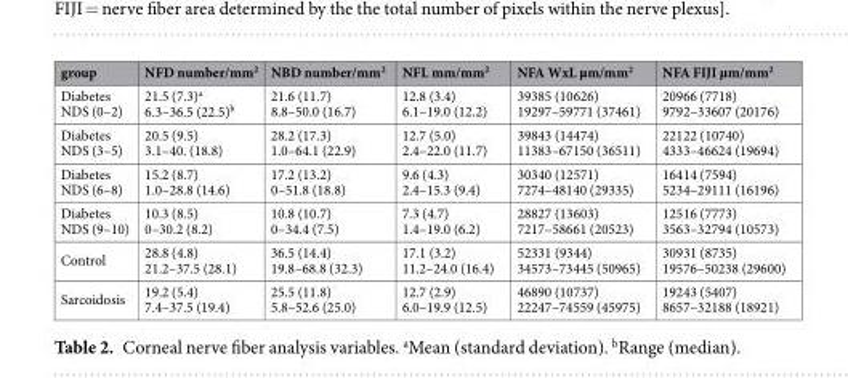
<table><thead><tr><td>group</td><td>NFD number/mm<sup>2</sup></td><td>NBD number/mm<sup>2</sup></td><td>NFL mm/mm<sup>2</sup></td><td>NFA WxL µm/mm<sup>2</sup></td><td>NFA FIJI µm/mm<sup>2</sup></td></tr></thead><tbody><tr><td>Diabetes NDS (0–2)</td><td>21.5 (7.3)<sup>a</sup> 6.3–36.5 (22.5)<sup>b</sup></td><td>21.6 (11.7) 8.8–50.0 (16.7)</td><td>12.8 (3.4) 6.1–19.0 (12.2)</td><td>39385 (10626) 19297–59771 (37461)</td><td>20966 (7718) 9792–33607 (20176)</td></tr><tr><td>Diabetes NDS (3–5)</td><td>20.5 (9.5) 3.1–40. (18.8)</td><td>28.2 (17.3) 1.0–64.1 (22.9)</td><td>12.7 (5.0) 2.4–22.0 (11.7)</td><td>39843 (14474) 11383–67150 (36511)</td><td>22122 (10740) 4333–46624 (19694)</td></tr><tr><td>Diabetes NDS (6–8)</td><td>15.2 (8.7) 1.0–28.8 (14.6)</td><td>17.2 (13.2) 0–51.8 (18.8)</td><td>9.6 (4.3) 2.4–15.3 (9.4)</td><td>30340 (12571) 7274–48140 (29335)</td><td>16414 (7594) 5234–29111 (16196)</td></tr><tr><td>Diabetes NDS (9–10)</td><td>10.3 (8.5) 0–30.2 (8.2)</td><td>10.8 (10.7) 0–34.4 (7.5)</td><td>7.3 (4.7) 1.4–19.0 (6.2)</td><td>28827 (13603) 7217–58661 (20523)</td><td>12516 (7773) 3563–32794 (10573)</td></tr><tr><td>Control</td><td>28.8 (4.8) 21.2–37.5 (28.1)</td><td>36.5 (14.4) 19.8–68.8 (32.3)</td><td>17.1 (3.2) 11.2–24.0 (16.4)</td><td>52331 (9344) 34573–73445 (50965)</td><td>30931 (8735) 19576–50238 (29600)</td></tr><tr><td>Sarcoidosis</td><td>19.2 (5.4) 7.4–37.5 (19.4)</td><td>25.5 (11.8) 5.8–52.6 (25.0)</td><td>12.7 (2.9) 6.0–19.9 (12.5)</td><td>46890 (10737) 22247–74559 (45975)</td><td>19243 (5407) 8657–32188 (18921)</td></tr></tbody></table>